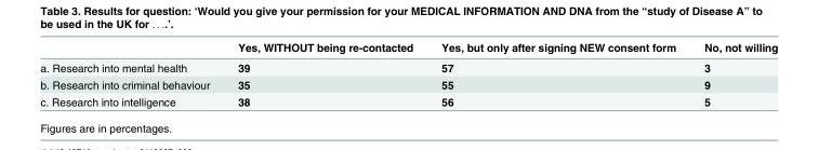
<table><thead><tr><td></td><td>Yes, WITHOUT being re-contacted</td><td>Yes, but only after signing NEW consent form</td><td>No, not willing</td></tr></thead><tbody><tr><td>a. Research into mental health</td><td>39</td><td>57</td><td>3</td></tr><tr><td>b. Research into criminal behaviour</td><td>35</td><td>55</td><td>9</td></tr><tr><td>c. Research into intelligence</td><td>38</td><td>56</td><td>5</td></tr></tbody></table>